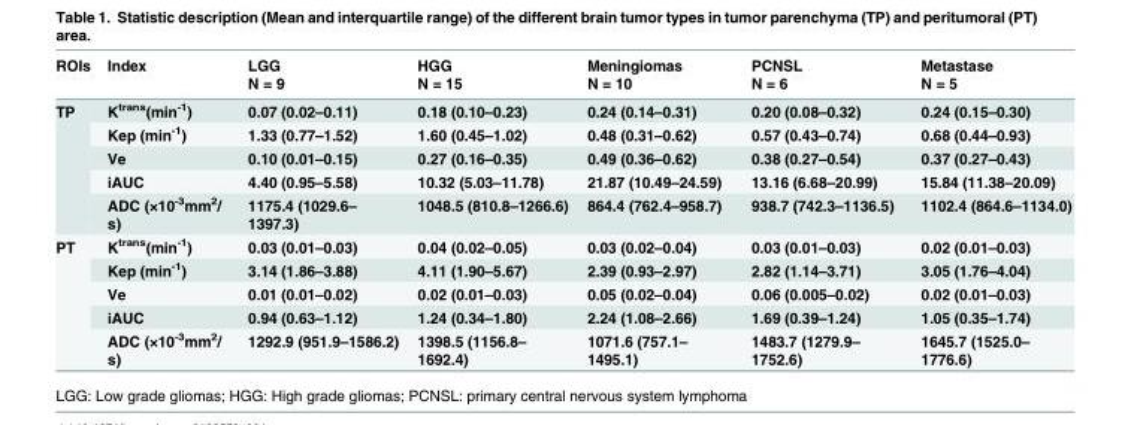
<table><thead><tr><td rowspan="2">ROIs</td><td rowspan="2">Index</td><td rowspan="2">LGG N = 9</td><td rowspan="2">HGG N = 15</td><td rowspan="2">Meningiomas N = 10</td><td rowspan="2">PCNSL N = 6</td><td rowspan="2">Metastase N = 5</td></tr><tr></tr></thead><tbody><tr><td rowspan="5">TP</td><td>K<sup>trans</sup>(min<sup>-1</sup>)</td><td>0.07 (0.02–0.11)</td><td>0.18 (0.10–0.23)</td><td>0.24 (0.14–0.31)</td><td>0.20 (0.08–0.32)</td><td>0.24 (0.15–0.30)</td></tr><tr><td>Kep (min<sup>-1</sup>)</td><td>1.33 (0.77–1.52)</td><td>1.60 (0.45–1.02)</td><td>0.48 (0.31–0.62)</td><td>0.57 (0.43–0.74)</td><td>0.68 (0.44–0.93)</td></tr><tr><td>Ve</td><td>0.10 (0.01–0.15)</td><td>0.27 (0.16–0.35)</td><td>0.49 (0.36–0.62)</td><td>0.38 (0.27–0.54)</td><td>0.37 (0.27–0.43)</td></tr><tr><td>iAUC</td><td>4.40 (0.95–5.58)</td><td>10.32 (5.03–11.78)</td><td>21.87 (10.49–24.59)</td><td>13.16 (6.68–20.99)</td><td>15.84 (11.38–20.09)</td></tr><tr><td>ADC (×10<sup>-3</sup>mm<sup>2</sup>/ s)</td><td>1175.4 (1029.6– 1397.3)</td><td>1048.5 (810.8–1266.6)</td><td>864.4 (762.4–958.7)</td><td>938.7 (742.3–1136.5)</td><td>1102.4 (864.6–1134.0)</td></tr><tr><td rowspan="5">PT</td><td>K<sup>trans</sup>(min<sup>-1</sup>)</td><td>0.03 (0.01–0.03)</td><td>0.04 (0.02–0.05)</td><td>0.03 (0.02–0.04)</td><td>0.03 (0.01–0.03)</td><td>0.02 (0.01–0.03)</td></tr><tr><td>Kep (min<sup>-1</sup>)</td><td>3.14 (1.86–3.88)</td><td>4.11 (1.90–5.67)</td><td>2.39 (0.93–2.97)</td><td>2.82 (1.14–3.71)</td><td>3.05 (1.76–4.04)</td></tr><tr><td>Ve</td><td>0.01 (0.01–0.02)</td><td>0.02 (0.01–0.03)</td><td>0.05 (0.02–0.04)</td><td>0.06 (0.005–0.02)</td><td>0.02 (0.01–0.03)</td></tr><tr><td>iAUC</td><td>0.94 (0.63–1.12)</td><td>1.24 (0.34–1.80)</td><td>2.24 (1.08–2.66)</td><td>1.69 (0.39–1.24)</td><td>1.05 (0.35–1.74)</td></tr><tr><td>ADC (×10<sup>-3</sup>mm<sup>2</sup>/ s)</td><td>1292.9 (951.9–1586.2)</td><td>1398.5 (1156.8– 1692.4)</td><td>1071.6 (757.1– 1495.1)</td><td>1483.7 (1279.9– 1752.6)</td><td>1645.7 (1525.0– 1776.6)</td></tr></tbody></table>